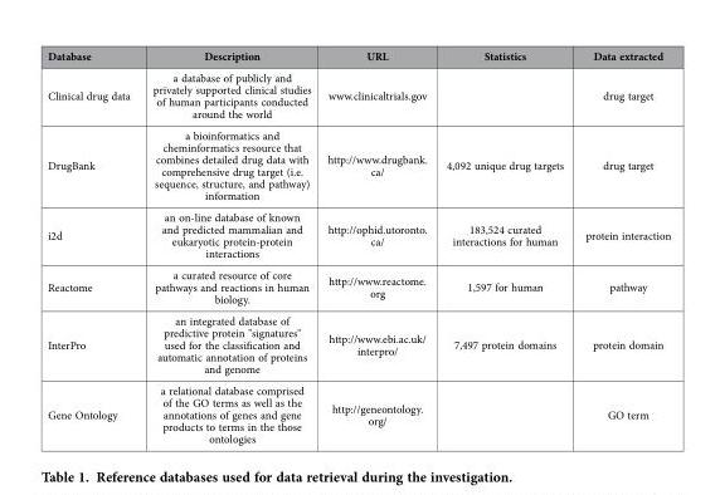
<table><tbody><tr><td>Database</td><td>Description</td><td>URL</td><td>Statistics</td><td>Data extracted</td></tr><tr><td>Clinical drug data</td><td>a database of publicly and privately supported clinical studies of human participants conducted around the world</td><td>www.clinicaltrials.gov</td><td></td><td>drug target</td></tr><tr><td>DrugBank</td><td>a bioinformatics and cheminformatics resource that combines detailed drug data with comprehensive drug target (i.e. sequence, structure, and pathway) information</td><td>http://www.drugbank. ca/</td><td>4,092 unique drug targets</td><td>drug target</td></tr><tr><td>i2d</td><td>an on-line database of known and predicted mammalian and eukaryotic protein-protein interactions</td><td>http://ophid.utoronto. ca/</td><td>183,524 curated interactions for human</td><td>protein interaction</td></tr><tr><td>Reactome</td><td>a curated resource of core pathways and reactions in human biology.</td><td>http://www.reactome. org</td><td>1,597 for human</td><td>pathway</td></tr><tr><td>InterPro</td><td>an integrated database of predictive protein &quot;signatures&quot; used for the classification and automatic annotation of proteins and genome</td><td>http://www.ebi.ac.uk/ interpro/</td><td>7,497 protein domains</td><td>protein domain</td></tr><tr><td>Gene Ontology</td><td>a relational database comprised of the GO terms as well as the annotations of genes and gene products to terms in the those ontologies</td><td>http://geneontology. org/</td><td></td><td>GO term</td></tr></tbody></table>